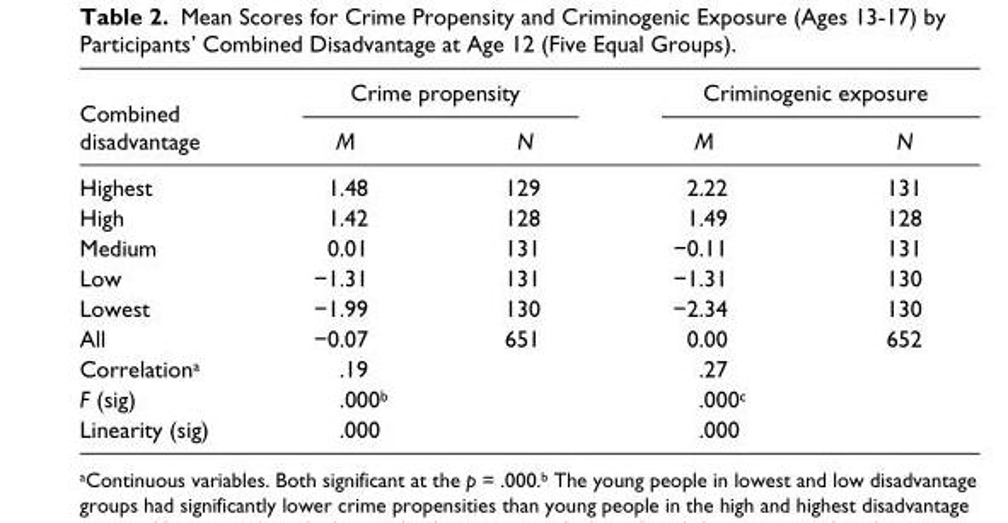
<table><thead><tr><td rowspan="2">Combined disadvantage</td><td colspan="2">Crime propensity</td><td colspan="2">Criminogenic exposure</td></tr><tr><td>M</td><td>N</td><td>M</td><td>N</td></tr></thead><tbody><tr><td>Highest</td><td>1.48</td><td>129</td><td>2.22</td><td>131</td></tr><tr><td>High</td><td>1.42</td><td>128</td><td>1.49</td><td>128</td></tr><tr><td>Medium</td><td>0.01</td><td>131</td><td>−0.11</td><td>131</td></tr><tr><td>Low</td><td>−1.31</td><td>131</td><td>−1.31</td><td>130</td></tr><tr><td>Lowest</td><td>−1.99</td><td>130</td><td>−2.34</td><td>130</td></tr><tr><td>All</td><td>−0.07</td><td>651</td><td>0.00</td><td>652</td></tr><tr><td>Correlation<sup>a</sup></td><td>.19</td><td></td><td>.27</td><td></td></tr><tr><td>F (sig)</td><td>.000<sup>b</sup></td><td></td><td>.000<sup>c</sup></td><td></td></tr><tr><td>Linearity (sig)</td><td>.000</td><td></td><td>.000</td><td></td></tr></tbody></table>